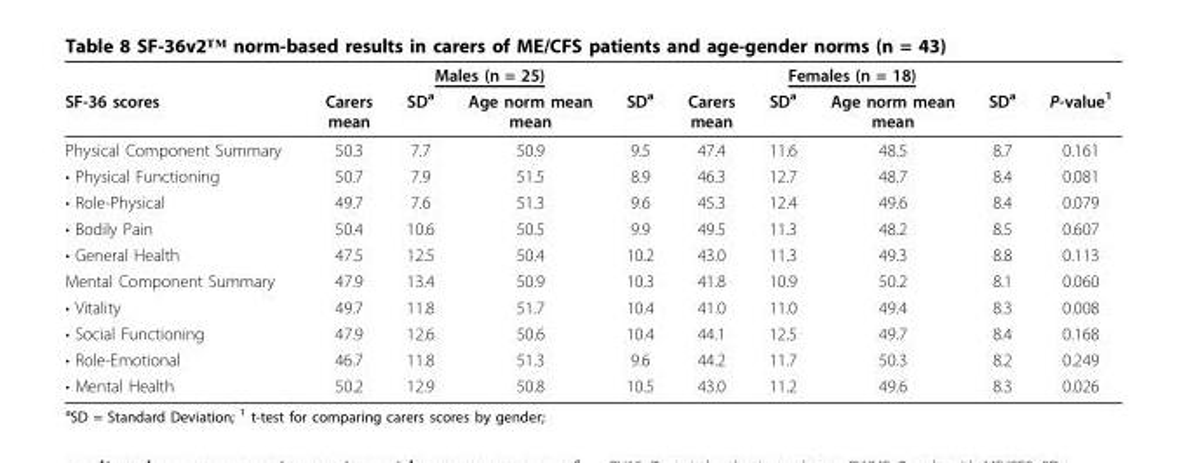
<table><thead><tr><td rowspan="2">SF-36 scores</td><td colspan="4">Males (n = 25)</td><td colspan="4">Females (n = 18)</td><td rowspan="2">P-value<sup>1</sup></td></tr><tr><td>Carers mean</td><td>SD<sup>a</sup></td><td>Age norm mean mean</td><td>SD<sup>a</sup></td><td>Carers mean</td><td>SD<sup>a</sup></td><td>Age norm mean mean</td><td>SD<sup>a</sup></td></tr></thead><tbody><tr><td>Physical Component Summary</td><td>50.3</td><td>7.7</td><td>50.9</td><td>9.5</td><td>47.4</td><td>11.6</td><td>48.5</td><td>8.7</td><td>0.161</td></tr><tr><td>• Physical Functioning</td><td>50.7</td><td>7.9</td><td>51.5</td><td>8.9</td><td>46.3</td><td>12.7</td><td>48.7</td><td>8.4</td><td>0.081</td></tr><tr><td>• Role-Physical</td><td>49.7</td><td>7.6</td><td>51.3</td><td>9.6</td><td>45.3</td><td>12.4</td><td>49.6</td><td>8.4</td><td>0.079</td></tr><tr><td>• Bodily Pain</td><td>50.4</td><td>10.6</td><td>50.5</td><td>9.9</td><td>49.5</td><td>11.3</td><td>48.2</td><td>8.5</td><td>0.607</td></tr><tr><td>• General Health</td><td>47.5</td><td>12.5</td><td>50.4</td><td>10.2</td><td>43.0</td><td>11.3</td><td>49.3</td><td>8.8</td><td>0.113</td></tr><tr><td>Mental Component Summary</td><td>47.9</td><td>13.4</td><td>50.9</td><td>10.3</td><td>41.8</td><td>10.9</td><td>50.2</td><td>8.1</td><td>0.060</td></tr><tr><td>• Vitality</td><td>49.7</td><td>11.8</td><td>51.7</td><td>10.4</td><td>41.0</td><td>11.0</td><td>49.4</td><td>8.3</td><td>0.008</td></tr><tr><td>• Social Functioning</td><td>47.9</td><td>12.6</td><td>50.6</td><td>10.4</td><td>44.1</td><td>12.5</td><td>49.7</td><td>8.4</td><td>0.168</td></tr><tr><td>• Role-Emotional</td><td>46.7</td><td>11.8</td><td>51.3</td><td>9.6</td><td>44.2</td><td>11.7</td><td>50.3</td><td>8.2</td><td>0.249</td></tr><tr><td>• Mental Health</td><td>50.2</td><td>12.9</td><td>50.8</td><td>10.5</td><td>43.0</td><td>11.2</td><td>49.6</td><td>8.3</td><td>0.026</td></tr></tbody></table>